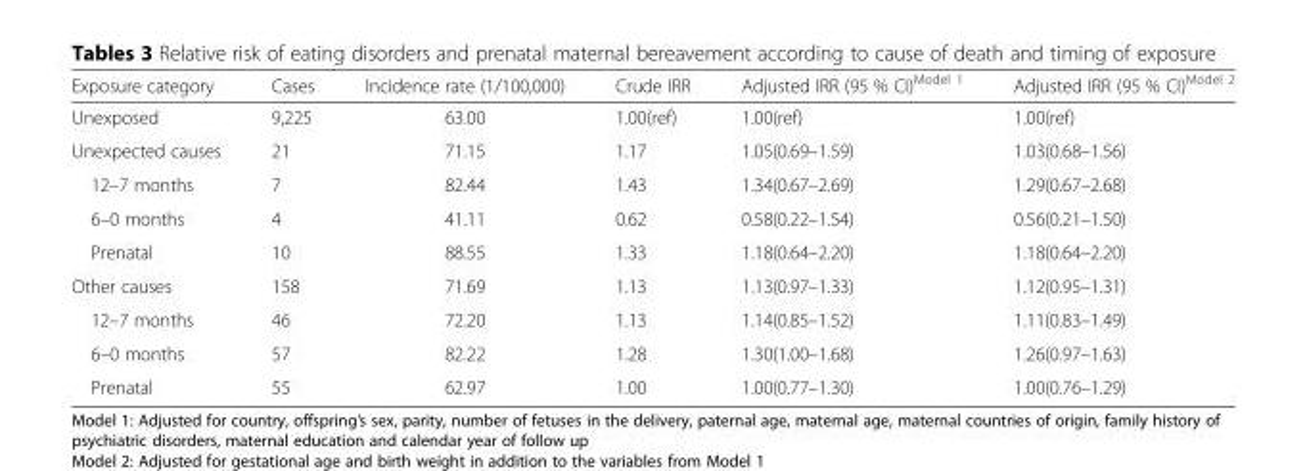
<table><thead><tr><td>Exposure category</td><td>Cases</td><td>Incidence rate (1/100,000)</td><td>Crude IRR</td><td>Adjusted IRR (95 % CI)<sup>Model 1</sup></td><td>Adjusted IRR (95 % CI)<sup>Model 2</sup></td></tr></thead><tbody><tr><td>Unexposed</td><td>9,225</td><td>63.00</td><td>1.00(ref)</td><td>1.00(ref)</td><td>1.00(ref)</td></tr><tr><td>Unexpected causes</td><td>21</td><td>71.15</td><td>1.17</td><td>1.05(0.69–1.59)</td><td>1.03(0.68–1.56)</td></tr><tr><td>12–7 months</td><td>7</td><td>82.44</td><td>1.43</td><td>1.34(0.67–2.69)</td><td>1.29(0.67–2.68)</td></tr><tr><td>6–0 months</td><td>4</td><td>41.11</td><td>0.62</td><td>0.58(0.22–1.54)</td><td>0.56(0.21–1.50)</td></tr><tr><td>Prenatal</td><td>10</td><td>88.55</td><td>1.33</td><td>1.18(0.64–2.20)</td><td>1.18(0.64–2.20)</td></tr><tr><td>Other causes</td><td>158</td><td>71.69</td><td>1.13</td><td>1.13(0.97–1.33)</td><td>1.12(0.95–1.31)</td></tr><tr><td>12–7 months</td><td>46</td><td>72.20</td><td>1.13</td><td>1.14(0.85–1.52)</td><td>1.11(0.83–1.49)</td></tr><tr><td>6–0 months</td><td>57</td><td>82.22</td><td>1.28</td><td>1.30(1.00–1.68)</td><td>1.26(0.97–1.63)</td></tr><tr><td>Prenatal</td><td>55</td><td>62.97</td><td>1.00</td><td>1.00(0.77–1.30)</td><td>1.00(0.76–1.29)</td></tr></tbody></table>